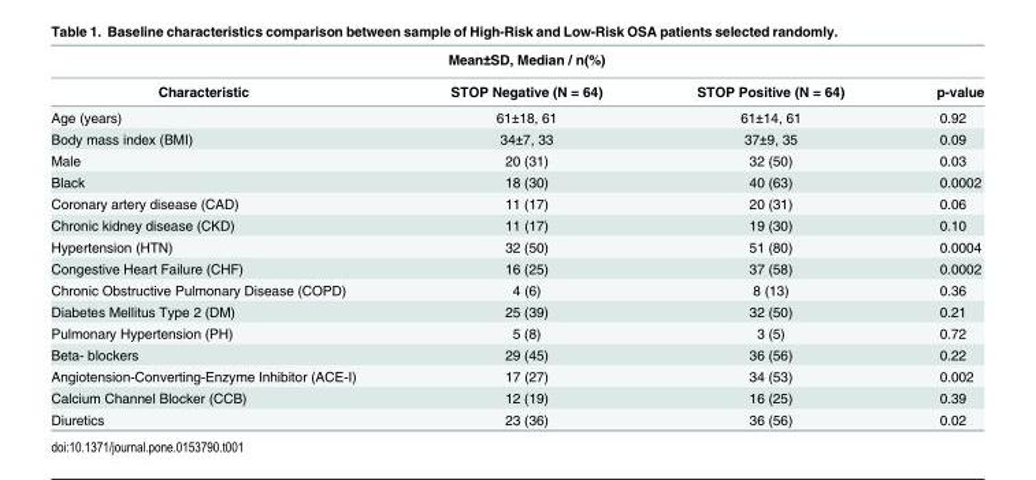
<table><thead><tr><td rowspan="2">Characteristic</td><td rowspan="2">Mean±SD, Median / n(%) STOP Negative (N = 64)</td><td rowspan="2">STOP Positive (N = 64)</td><td rowspan="2">p-value</td></tr><tr></tr></thead><tbody><tr><td>Age (years)</td><td>61±18, 61</td><td>61±14, 61</td><td>0.92</td></tr><tr><td>Body mass index (BMI)</td><td>34±7, 33</td><td>37±9, 35</td><td>0.09</td></tr><tr><td>Male</td><td>20 (31)</td><td>32 (50)</td><td>0.03</td></tr><tr><td>Black</td><td>18 (30)</td><td>40 (63)</td><td>0.0002</td></tr><tr><td>Coronary artery disease (CAD)</td><td>11 (17)</td><td>20 (31)</td><td>0.06</td></tr><tr><td>Chronic kidney disease (CKD)</td><td>11 (17)</td><td>19 (30)</td><td>0.10</td></tr><tr><td>Hypertension (HTN)</td><td>32 (50)</td><td>51 (80)</td><td>0.0004</td></tr><tr><td>Congestive Heart Failure (CHF)</td><td>16 (25)</td><td>37 (58)</td><td>0.0002</td></tr><tr><td>Chronic Obstructive Pulmonary Disease (COPD)</td><td>4 (6)</td><td>8 (13)</td><td>0.36</td></tr><tr><td>Diabetes Mellitus Type 2 (DM)</td><td>25 (39)</td><td>32 (50)</td><td>0.21</td></tr><tr><td>Pulmonary Hypertension (PH)</td><td>5 (8)</td><td>3 (5)</td><td>0.72</td></tr><tr><td>Beta- blockers</td><td>29 (45)</td><td>36 (56)</td><td>0.22</td></tr><tr><td>Angiotension-Converting-Enzyme Inhibitor (ACE-I)</td><td>17 (27)</td><td>34 (53)</td><td>0.002</td></tr><tr><td>Calcium Channel Blocker (CCB)</td><td>12 (19)</td><td>16 (25)</td><td>0.39</td></tr><tr><td>Diuretics</td><td>23 (36)</td><td>36 (56)</td><td>0.02</td></tr></tbody></table>